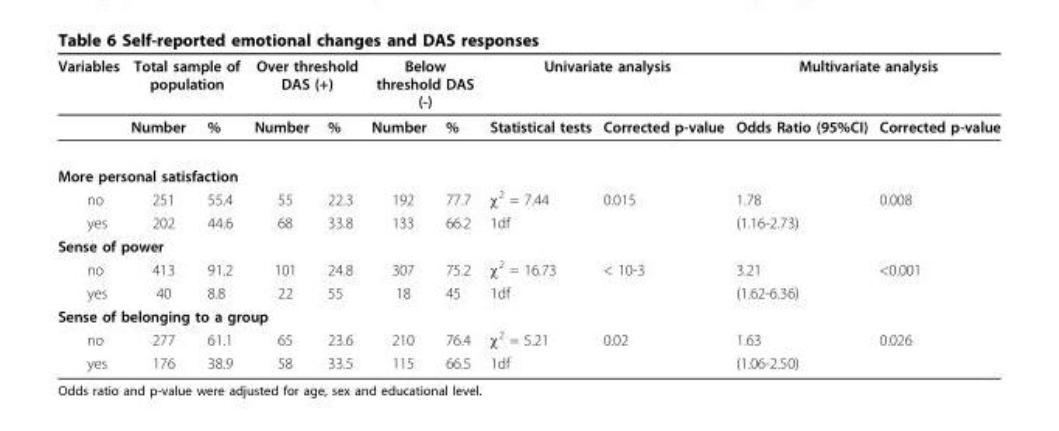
<table><thead><tr><td rowspan="2">Variables</td><td colspan="2">Total sample of population</td><td colspan="2">Over threshold DAS (+)</td><td colspan="2">Below threshold DAS (-)</td><td colspan="2">Univariate analysis</td><td colspan="2">Multivariate analysis</td></tr><tr><td>Number</td><td>%</td><td>Number</td><td>%</td><td>Number</td><td>%</td><td>Statistical tests</td><td>Corrected p-value</td><td>Odds Ratio (95%CI)</td><td>Corrected p-value</td></tr></thead><tbody><tr><td colspan="11">More personal satisfaction</td></tr><tr><td>no</td><td>251</td><td>55.4</td><td>55</td><td>22.3</td><td>192</td><td>77.7</td><td>χ<sup>2</sup> = 7.44</td><td>0.015</td><td>1.78</td><td>0.008</td></tr><tr><td>yes</td><td>202</td><td>44.6</td><td>68</td><td>33.8</td><td>133</td><td>66.2</td><td>1df</td><td></td><td>(1.16-2.73)</td><td></td></tr><tr><td colspan="11">Sense of power</td></tr><tr><td>no</td><td>413</td><td>91.2</td><td>101</td><td>24.8</td><td>307</td><td>75.2</td><td>χ<sup>2</sup> = 16.73</td><td>&lt; 10-3</td><td>3.21</td><td>&lt;0.001</td></tr><tr><td>yes</td><td>40</td><td>8.8</td><td>22</td><td>55</td><td>18</td><td>45</td><td>1df</td><td></td><td>(1.62-6.36)</td><td></td></tr><tr><td colspan="11">Sense of belonging to a group</td></tr><tr><td>no</td><td>277</td><td>61.1</td><td>65</td><td>23.6</td><td>210</td><td>76.4</td><td>χ<sup>2</sup> = 5.21</td><td>0.02</td><td>1.63</td><td>0.026</td></tr><tr><td>yes</td><td>176</td><td>38.9</td><td>58</td><td>33.5</td><td>115</td><td>66.5</td><td>1df</td><td></td><td>(1.06-2.50)</td><td></td></tr></tbody></table>